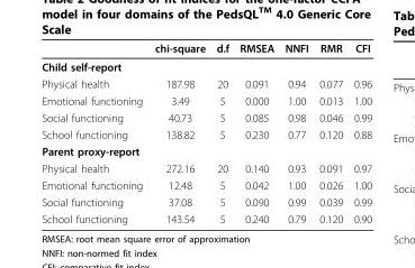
<table><thead><tr><td></td><td>chi-square</td><td>d.f</td><td>RMSEA</td><td>NNFI</td><td>RMR</td><td>CFI</td></tr></thead><tbody><tr><td colspan="7">Child self-report</td></tr><tr><td>Physical health</td><td>187.98</td><td>20</td><td>0.091</td><td>0.94</td><td>0.077</td><td>0.96</td></tr><tr><td>Emotional functioning</td><td>3.49</td><td>5</td><td>0.000</td><td>1.00</td><td>0.013</td><td>1.00</td></tr><tr><td>Social functioning</td><td>40.73</td><td>5</td><td>0.085</td><td>0.98</td><td>0.046</td><td>0.99</td></tr><tr><td>School functioning</td><td>138.82</td><td>5</td><td>0.230</td><td>0.77</td><td>0.120</td><td>0.88</td></tr><tr><td colspan="7">Parent proxy-report</td></tr><tr><td>Physical health</td><td>272.16</td><td>20</td><td>0.140</td><td>0.93</td><td>0.091</td><td>0.97</td></tr><tr><td>Emotional functioning</td><td>12.48</td><td>5</td><td>0.042</td><td>1.00</td><td>0.026</td><td>1.00</td></tr><tr><td>Social functioning</td><td>37.08</td><td>5</td><td>0.090</td><td>0.99</td><td>0.039</td><td>0.99</td></tr><tr><td>School functioning</td><td>143.54</td><td>5</td><td>0.240</td><td>0.79</td><td>0.120</td><td>0.90</td></tr></tbody></table>